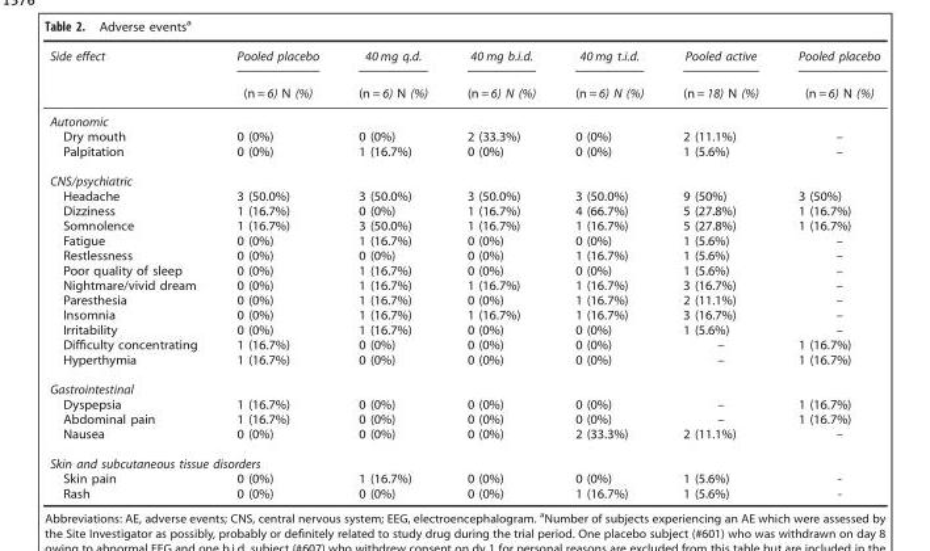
<table><thead><tr><td rowspan="2">Side effect</td><td rowspan="2">Pooled placebo (n = 6) N (%)</td><td rowspan="2">40 mg q.d. (n = 6) N (%)</td><td rowspan="2">40 mg b.i.d. (n = 6) N (%)</td><td rowspan="2">40 mg t.i.d. (n = 6) N (%)</td><td rowspan="2">Pooled active (n = 18) N (%)</td><td rowspan="2">Pooled placebo (n = 6) N (%)</td></tr><tr></tr></thead><tbody><tr><td colspan="7">Autonomic</td></tr><tr><td>Dry mouth</td><td>0 (0%)</td><td>0 (0%)</td><td>2 (33.3%)</td><td>0 (0%)</td><td>2 (11.1%)</td><td>–</td></tr><tr><td>Palpitation</td><td>0 (0%)</td><td>1 (16.7%)</td><td>0 (0%)</td><td>0 (0%)</td><td>1 (5.6%)</td><td>–</td></tr><tr><td colspan="7">CNS/psychiatric</td></tr><tr><td>Headache</td><td>3 (50.0%)</td><td>3 (50.0%)</td><td>3 (50.0%)</td><td>3 (50.0%)</td><td>9 (50%)</td><td>3 (50%)</td></tr><tr><td>Dizziness</td><td>1 (16.7%)</td><td>0 (0%)</td><td>1 (16.7%)</td><td>4 (66.7%)</td><td>5 (27.8%)</td><td>1 (16.7%)</td></tr><tr><td>Somnolence</td><td>1 (16.7%)</td><td>3 (50.0%)</td><td>1 (16.7%)</td><td>1 (16.7%)</td><td>5 (27.8%)</td><td>1 (16.7%)</td></tr><tr><td>Fatigue</td><td>0 (0%)</td><td>1 (16.7%)</td><td>0 (0%)</td><td>0 (0%)</td><td>1 (5.6%)</td><td>–</td></tr><tr><td>Restlessness</td><td>0 (0%)</td><td>0 (0%)</td><td>0 (0%)</td><td>1 (16.7%)</td><td>1 (5.6%)</td><td>–</td></tr><tr><td>Poor quality of sleep</td><td>0 (0%)</td><td>1 (16.7%)</td><td>0 (0%)</td><td>0 (0%)</td><td>1 (5.6%)</td><td>–</td></tr><tr><td>Nightmare/vivid dream</td><td>0 (0%)</td><td>1 (16.7%)</td><td>1 (16.7%)</td><td>1 (16.7%)</td><td>3 (16.7%)</td><td>–</td></tr><tr><td>Paresthesia</td><td>0 (0%)</td><td>1 (16.7%)</td><td>0 (0%)</td><td>1 (16.7%)</td><td>2 (11.1%)</td><td>–</td></tr><tr><td>Insomnia</td><td>0 (0%)</td><td>1 (16.7%)</td><td>1 (16.7%)</td><td>1 (16.7%)</td><td>3 (16.7%)</td><td>–</td></tr><tr><td>Irritability</td><td>0 (0%)</td><td>1 (16.7%)</td><td>0 (0%)</td><td>0 (0%)</td><td>1 (5.6%)</td><td>–</td></tr><tr><td>Difficulty concentrating</td><td>1 (16.7%)</td><td>0 (0%)</td><td>0 (0%)</td><td>0 (0%)</td><td>–</td><td>1 (16.7%)</td></tr><tr><td>Hyperthymia</td><td>1 (16.7%)</td><td>0 (0%)</td><td>0 (0%)</td><td>0 (0%)</td><td>–</td><td>1 (16.7%)</td></tr><tr><td colspan="7">Gastrointestinal</td></tr><tr><td>Dyspepsia</td><td>1 (16.7%)</td><td>0 (0%)</td><td>0 (0%)</td><td>0 (0%)</td><td>–</td><td>1 (16.7%)</td></tr><tr><td>Abdominal pain</td><td>1 (16.7%)</td><td>0 (0%)</td><td>0 (0%)</td><td>0 (0%)</td><td>–</td><td>1 (16.7%)</td></tr><tr><td>Nausea</td><td>0 (0%)</td><td>0 (0%)</td><td>0 (0%)</td><td>2 (33.3%)</td><td>2 (11.1%)</td><td>–</td></tr><tr><td colspan="7">Skin and subcutaneous tissue disorders</td></tr><tr><td>Skin pain</td><td>0 (0%)</td><td>1 (16.7%)</td><td>0 (0%)</td><td>0 (0%)</td><td>1 (5.6%)</td><td>-</td></tr><tr><td>Rash</td><td>0 (0%)</td><td>0 (0%)</td><td>0 (0%)</td><td>1 (16.7%)</td><td>1 (5.6%)</td><td>-</td></tr></tbody></table>